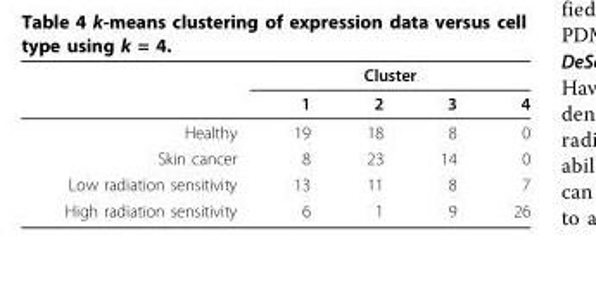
<table><thead><tr><td rowspan="2"></td><td colspan="4">Cluster</td></tr><tr><td>1</td><td>2</td><td>3</td><td>4</td></tr></thead><tbody><tr><td>Healthy</td><td>19</td><td>18</td><td>8</td><td>0</td></tr><tr><td>Skin cancer</td><td>8</td><td>23</td><td>14</td><td>0</td></tr><tr><td>Low radiation sensitivity</td><td>13</td><td>11</td><td>8</td><td>7</td></tr><tr><td>High radiation sensitivity</td><td>6</td><td>1</td><td>9</td><td>26</td></tr></tbody></table>